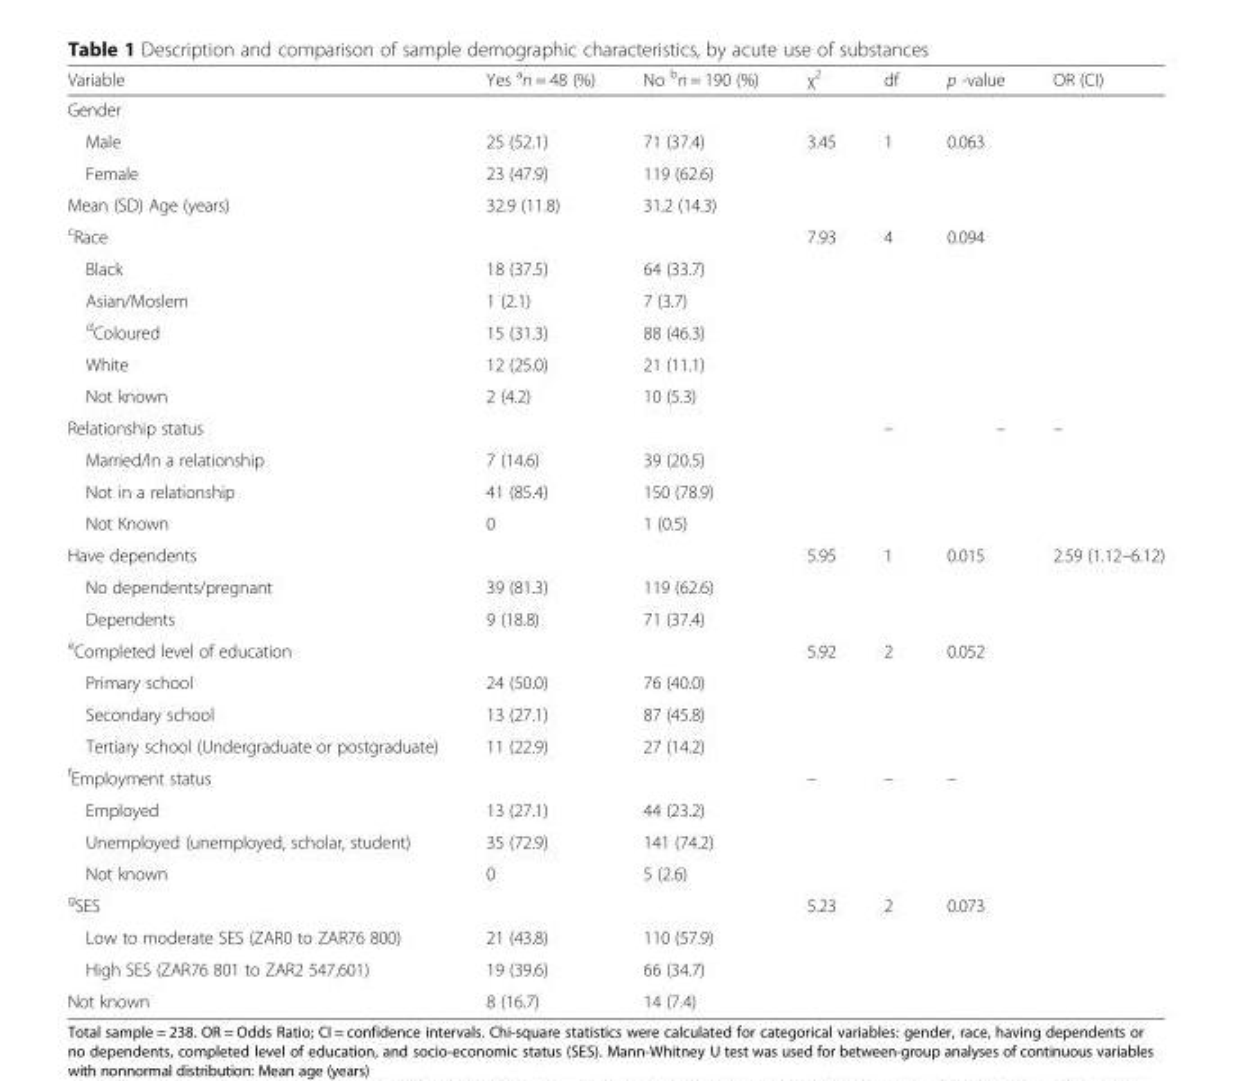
<table><thead><tr><td>Variable</td><td>Yes <sup>a</sup>n = 48 (%)</td><td>No <sup>b</sup>n = 190 (%)</td><td>χ<sup>2</sup></td><td>df</td><td>p -value</td><td>OR (CI)</td></tr></thead><tbody><tr><td colspan="7">Gender</td></tr><tr><td>Male</td><td>25 (52.1)</td><td>71 (37.4)</td><td>3.45</td><td>1</td><td>0.063</td><td></td></tr><tr><td>Female</td><td>23 (47.9)</td><td>119 (62.6)</td><td></td><td></td><td></td><td></td></tr><tr><td>Mean (SD) Age (years)</td><td>32.9 (11.8)</td><td>31.2 (14.3)</td><td></td><td></td><td></td><td></td></tr><tr><td><sup>c</sup>Race</td><td></td><td></td><td>7.93</td><td>4</td><td>0.094</td><td></td></tr><tr><td>Black</td><td>18 (37.5)</td><td>64 (33.7)</td><td></td><td></td><td></td><td></td></tr><tr><td>Asian/Moslem</td><td>1 (2.1)</td><td>7 (3.7)</td><td></td><td></td><td></td><td></td></tr><tr><td><sup>d</sup>Coloured</td><td>15 (31.3)</td><td>88 (46.3)</td><td></td><td></td><td></td><td></td></tr><tr><td>White</td><td>12 (25.0)</td><td>21 (11.1)</td><td></td><td></td><td></td><td></td></tr><tr><td>Not known</td><td>2 (4.2)</td><td>10 (5.3)</td><td></td><td></td><td></td><td></td></tr><tr><td>Relationship status</td><td></td><td></td><td></td><td>–</td><td>–</td><td>–</td></tr><tr><td>Married/In a relationship</td><td>7 (14.6)</td><td>39 (20.5)</td><td></td><td></td><td></td><td></td></tr><tr><td>Not in a relationship</td><td>41 (85.4)</td><td>150 (78.9)</td><td></td><td></td><td></td><td></td></tr><tr><td>Not Known</td><td>0</td><td>1 (0.5)</td><td></td><td></td><td></td><td></td></tr><tr><td>Have dependents</td><td></td><td></td><td>5.95</td><td>1</td><td>0.015</td><td>2.59 (1.12–6.12)</td></tr><tr><td>No dependents/pregnant</td><td>39 (81.3)</td><td>119 (62.6)</td><td></td><td></td><td></td><td></td></tr><tr><td>Dependents</td><td>9 (18.8)</td><td>71 (37.4)</td><td></td><td></td><td></td><td></td></tr><tr><td><sup>e</sup>Completed level of education</td><td></td><td></td><td>5.92</td><td>2</td><td>0.052</td><td></td></tr><tr><td>Primary school</td><td>24 (50.0)</td><td>76 (40.0)</td><td></td><td></td><td></td><td></td></tr><tr><td>Secondary school</td><td>13 (27.1)</td><td>87 (45.8)</td><td></td><td></td><td></td><td></td></tr><tr><td>Tertiary school (Undergraduate or postgraduate)</td><td>11 (22.9)</td><td>27 (14.2)</td><td></td><td></td><td></td><td></td></tr><tr><td><sup>f</sup>Employment status</td><td></td><td></td><td>–</td><td>–</td><td>–</td><td></td></tr><tr><td>Employed</td><td>13 (27.1)</td><td>44 (23.2)</td><td></td><td></td><td></td><td></td></tr><tr><td>Unemployed (unemployed, scholar, student)</td><td>35 (72.9)</td><td>141 (74.2)</td><td></td><td></td><td></td><td></td></tr><tr><td>Not known</td><td>0</td><td>5 (2.6)</td><td></td><td></td><td></td><td></td></tr><tr><td><sup>g</sup>SES</td><td></td><td></td><td>5.23</td><td>2</td><td>0.073</td><td></td></tr><tr><td>Low to moderate SES (ZAR0 to ZAR76 800)</td><td>21 (43.8)</td><td>110 (57.9)</td><td></td><td></td><td></td><td></td></tr><tr><td>High SES (ZAR76 801 to ZAR2 547,601)</td><td>19 (39.6)</td><td>66 (34.7)</td><td></td><td></td><td></td><td></td></tr><tr><td>Not known</td><td>8 (16.7)</td><td>14 (7.4)</td><td></td><td></td><td></td><td></td></tr></tbody></table>